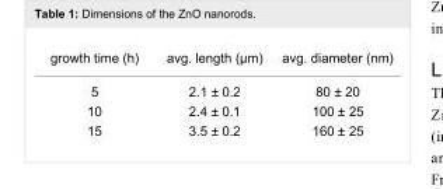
<table><tbody><tr><td>growth time (h)</td><td>avg. length (μm)</td><td>avg. diameter (nm)</td></tr><tr><td>5</td><td>2.1 ± 0.2</td><td>80 ± 20</td></tr><tr><td>10</td><td>2.4 ± 0.1</td><td>100 ± 25</td></tr><tr><td>15</td><td>3.5 ± 0.2</td><td>160 ± 25</td></tr></tbody></table>